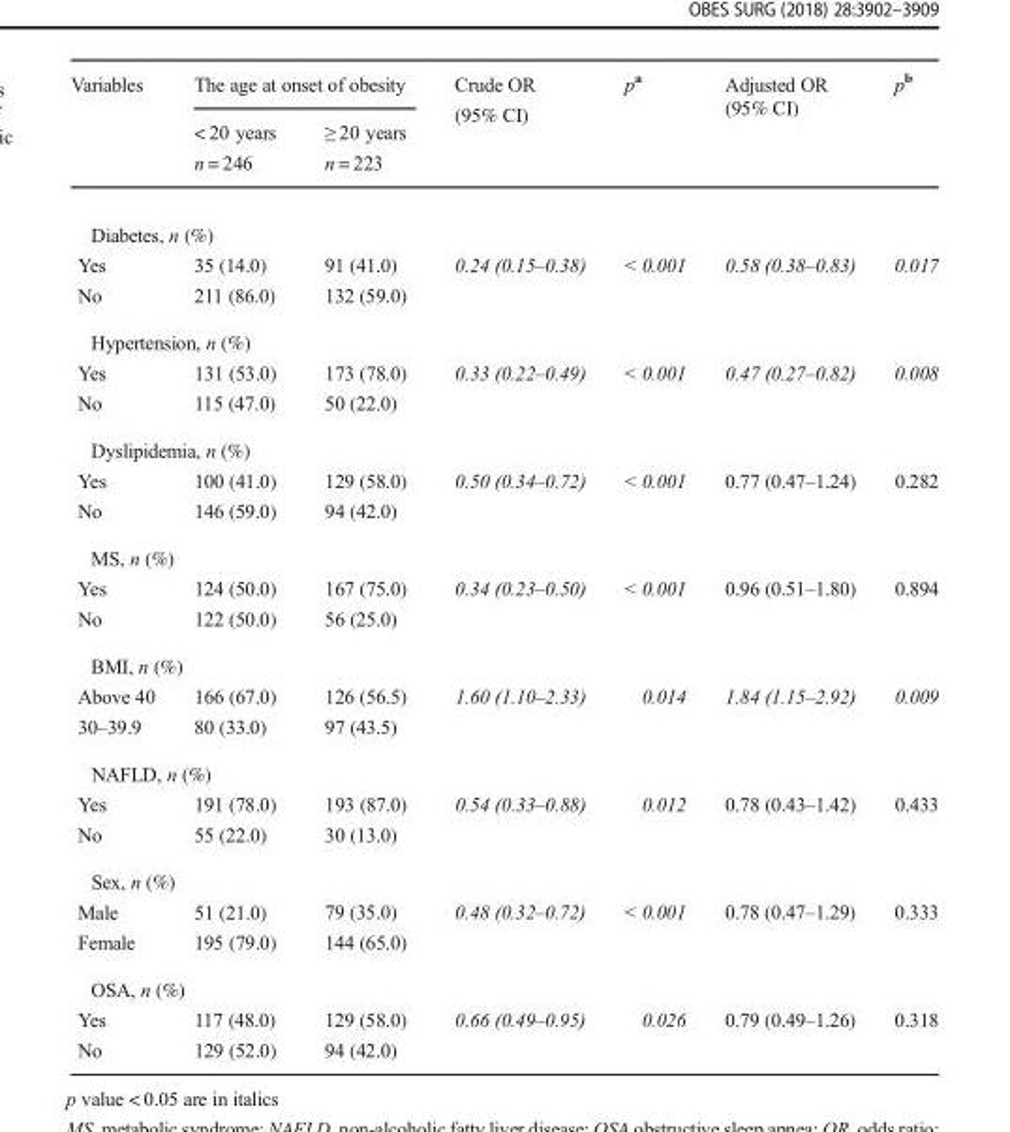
<table><thead><tr><td rowspan="2">Variables</td><td colspan="2">The age at onset of obesity</td><td rowspan="2">Crude OR (95% CI)</td><td rowspan="2">p<sup>a</sup></td><td rowspan="2">Adjusted OR (95% CI)</td><td rowspan="2">p<sup>b</sup></td></tr><tr><td>&lt; 20 years n = 246</td><td>≥ 20 years n = 223</td></tr></thead><tbody><tr><td colspan="7">Diabetes, n (%)</td></tr><tr><td>Yes No</td><td>35 (14.0) 211 (86.0)</td><td>91 (41.0) 132 (59.0)</td><td>0.24 (0.15–0.38)</td><td>&lt; 0.001</td><td>0.58 (0.38–0.83)</td><td>0.017</td></tr><tr><td colspan="7">Hypertension, n (%)</td></tr><tr><td>Yes No</td><td>131 (53.0) 115 (47.0)</td><td>173 (78.0) 50 (22.0)</td><td>0.33 (0.22–0.49)</td><td>&lt; 0.001</td><td>0.47 (0.27–0.82)</td><td>0.008</td></tr><tr><td colspan="7">Dyslipidemia, n (%)</td></tr><tr><td>Yes No</td><td>100 (41.0) 146 (59.0)</td><td>129 (58.0) 94 (42.0)</td><td>0.50 (0.34–0.72)</td><td>&lt; 0.001</td><td>0.77 (0.47–1.24)</td><td>0.282</td></tr><tr><td colspan="7">MS, n (%)</td></tr><tr><td>Yes No</td><td>124 (50.0) 122 (50.0)</td><td>167 (75.0) 56 (25.0)</td><td>0.34 (0.23–0.50)</td><td>&lt; 0.001</td><td>0.96 (0.51–1.80)</td><td>0.894</td></tr><tr><td colspan="7">BMI, n (%)</td></tr><tr><td>Above 40 30–39.9</td><td>166 (67.0) 80 (33.0)</td><td>126 (56.5) 97 (43.5)</td><td>1.60 (1.10–2.33)</td><td>0.014</td><td>1.84 (1.15–2.92)</td><td>0.009</td></tr><tr><td colspan="7">NAFLD, n (%)</td></tr><tr><td>Yes No</td><td>191 (78.0) 55 (22.0)</td><td>193 (87.0) 30 (13.0)</td><td>0.54 (0.33–0.88)</td><td>0.012</td><td>0.78 (0.43–1.42)</td><td>0.433</td></tr><tr><td colspan="7">Sex, n (%)</td></tr><tr><td>Male Female</td><td>51 (21.0) 195 (79.0)</td><td>79 (35.0) 144 (65.0)</td><td>0.48 (0.32–0.72)</td><td>&lt; 0.001</td><td>0.78 (0.47–1.29)</td><td>0.333</td></tr><tr><td colspan="7">OSA, n (%)</td></tr><tr><td>Yes No</td><td>117 (48.0) 129 (52.0)</td><td>129 (58.0) 94 (42.0)</td><td>0.66 (0.49–0.95)</td><td>0.026</td><td>0.79 (0.49–1.26)</td><td>0.318</td></tr></tbody></table>